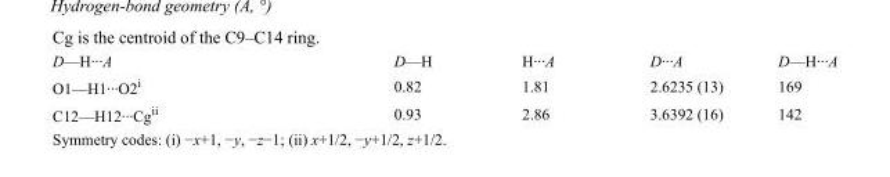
<table><tbody><tr><td>D—H···A</td><td>D—H</td><td>H···A</td><td>D···A</td><td>D—H···A</td></tr><tr><td>O1—H1···O2<sup>i</sup></td><td>0.82</td><td>1.81</td><td>2.6235 (13)</td><td>169</td></tr><tr><td>C12—H12···Cg<sup>ii</sup></td><td>0.93</td><td>2.86</td><td>3.6392 (16)</td><td>142</td></tr></tbody></table>